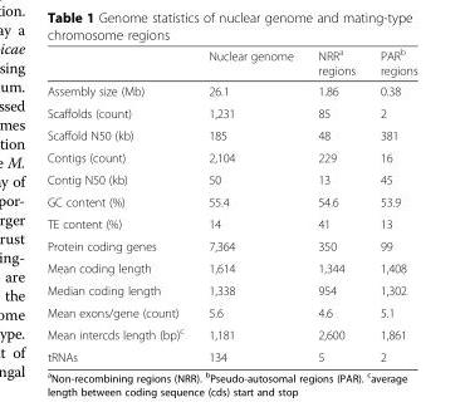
<table><thead><tr><td></td><td>Nuclear genome</td><td>NRR<sup>a</sup> regions</td><td>PAR<sup>b</sup> regions</td></tr></thead><tbody><tr><td>Assembly size (Mb)</td><td>26.1</td><td>1.86</td><td>0.38</td></tr><tr><td>Scaffolds (count)</td><td>1,231</td><td>85</td><td>2</td></tr><tr><td>Scaffold N50 (kb)</td><td>185</td><td>48</td><td>381</td></tr><tr><td>Contigs (count)</td><td>2,104</td><td>229</td><td>16</td></tr><tr><td>Contig N50 (kb)</td><td>50</td><td>13</td><td>45</td></tr><tr><td>GC content (%)</td><td>55.4</td><td>54.6</td><td>53.9</td></tr><tr><td>TE content (%)</td><td>14</td><td>41</td><td>13</td></tr><tr><td>Protein coding genes</td><td>7,364</td><td>350</td><td>99</td></tr><tr><td>Mean coding length</td><td>1,614</td><td>1,344</td><td>1,408</td></tr><tr><td>Median coding length</td><td>1,338</td><td>954</td><td>1,302</td></tr><tr><td>Mean exons/gene (count)</td><td>5.6</td><td>4.6</td><td>5.1</td></tr><tr><td>Mean intercds length (bp)<sup>c</sup></td><td>1,181</td><td>2,600</td><td>1,861</td></tr><tr><td>tRNAs</td><td>134</td><td>5</td><td>2</td></tr></tbody></table>